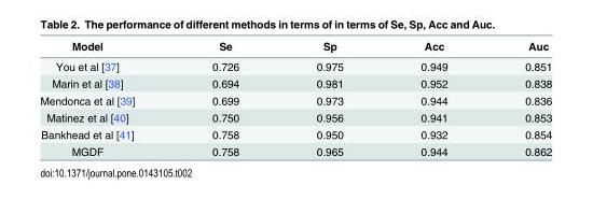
<table><thead><tr><td>Model</td><td>Se</td><td>Sp</td><td>Acc</td><td>Auc</td></tr></thead><tbody><tr><td>You et al [37]</td><td>0.726</td><td>0.975</td><td>0.949</td><td>0.851</td></tr><tr><td>Marin et al [38]</td><td>0.694</td><td>0.981</td><td>0.952</td><td>0.838</td></tr><tr><td>Mendonca et al [39]</td><td>0.699</td><td>0.973</td><td>0.944</td><td>0.836</td></tr><tr><td>Matinez et al [40]</td><td>0.750</td><td>0.956</td><td>0.941</td><td>0.853</td></tr><tr><td>Bankhead et al [41]</td><td>0.758</td><td>0.950</td><td>0.932</td><td>0.854</td></tr><tr><td>MGDF</td><td>0.758</td><td>0.965</td><td>0.944</td><td>0.862</td></tr></tbody></table>